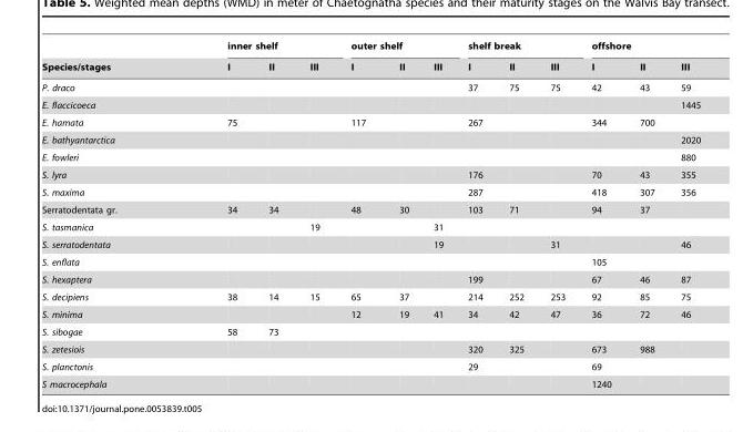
<table><thead><tr><td rowspan="2">Species/stages</td><td colspan="3">inner shelf</td><td colspan="3">outer shelf</td><td colspan="3">shelf break</td><td colspan="3">offshore</td></tr><tr><td>I</td><td>II</td><td>III</td><td>I</td><td>II</td><td>III</td><td>I</td><td>II</td><td>III</td><td>I</td><td>II</td><td>III</td></tr></thead><tbody><tr><td>P. draco</td><td></td><td></td><td></td><td></td><td></td><td></td><td>37</td><td>75</td><td>75</td><td>42</td><td>43</td><td>59</td></tr><tr><td>E. flaccicoeca</td><td></td><td></td><td></td><td></td><td></td><td></td><td></td><td></td><td></td><td></td><td></td><td>1445</td></tr><tr><td>E. hamata</td><td>75</td><td></td><td></td><td>117</td><td></td><td></td><td>267</td><td></td><td></td><td>344</td><td>700</td><td></td></tr><tr><td>E. bathyantarctica</td><td></td><td></td><td></td><td></td><td></td><td></td><td></td><td></td><td></td><td></td><td></td><td>2020</td></tr><tr><td>E. fowleri</td><td></td><td></td><td></td><td></td><td></td><td></td><td></td><td></td><td></td><td></td><td></td><td>880</td></tr><tr><td>S. lyra</td><td></td><td></td><td></td><td></td><td></td><td></td><td>176</td><td></td><td></td><td>70</td><td>43</td><td>355</td></tr><tr><td>S. maxima</td><td></td><td></td><td></td><td></td><td></td><td></td><td>287</td><td></td><td></td><td>418</td><td>307</td><td>356</td></tr><tr><td>Serratodentata gr.</td><td>34</td><td>34</td><td></td><td>48</td><td>30</td><td></td><td>103</td><td>71</td><td></td><td>94</td><td>37</td><td></td></tr><tr><td>S. tasmanica</td><td></td><td></td><td>19</td><td></td><td></td><td>31</td><td></td><td></td><td></td><td></td><td></td><td></td></tr><tr><td>S. serratodentata</td><td></td><td></td><td></td><td></td><td></td><td>19</td><td></td><td></td><td>31</td><td></td><td></td><td>46</td></tr><tr><td>S. enflata</td><td></td><td></td><td></td><td></td><td></td><td></td><td></td><td></td><td></td><td>105</td><td></td><td></td></tr><tr><td>S. hexaptera</td><td></td><td></td><td></td><td></td><td></td><td></td><td>199</td><td></td><td></td><td>67</td><td>46</td><td>87</td></tr><tr><td>S. decipiens</td><td>38</td><td>14</td><td>15</td><td>65</td><td>37</td><td></td><td>214</td><td>252</td><td>253</td><td>92</td><td>85</td><td>75</td></tr><tr><td>S. minima</td><td></td><td></td><td></td><td>12</td><td>19</td><td>41</td><td>34</td><td>42</td><td>47</td><td>36</td><td>72</td><td>46</td></tr><tr><td>S. sibogae</td><td>58</td><td>73</td><td></td><td></td><td></td><td></td><td></td><td></td><td></td><td></td><td></td><td></td></tr><tr><td>S. zetesiois</td><td></td><td></td><td></td><td></td><td></td><td></td><td>320</td><td>325</td><td></td><td>673</td><td>988</td><td></td></tr><tr><td>S. planctonis</td><td></td><td></td><td></td><td></td><td></td><td></td><td>29</td><td></td><td></td><td>69</td><td></td><td></td></tr><tr><td>S macrocephala</td><td></td><td></td><td></td><td></td><td></td><td></td><td></td><td></td><td></td><td>1240</td><td></td><td></td></tr></tbody></table>